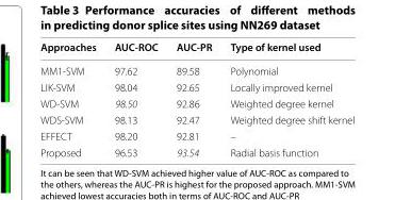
<table><thead><tr><td>Approaches</td><td>AUC-ROC</td><td>AUC-PR</td><td>Type of kernel used</td></tr></thead><tbody><tr><td>MM1-SVM</td><td>97.62</td><td>89.58</td><td>Polynomial</td></tr><tr><td>LIK-SVM</td><td>98.04</td><td>92.65</td><td>Locally improved kernel</td></tr><tr><td>WD-SVM</td><td>98.50</td><td>92.86</td><td>Weighted degree kernel</td></tr><tr><td>WDS-SVM</td><td>98.13</td><td>92.47</td><td>Weighted degree shift kernel</td></tr><tr><td>EFFECT</td><td>98.20</td><td>92.81</td><td>–</td></tr><tr><td>Proposed</td><td>96.53</td><td>93.54</td><td>Radial basis function</td></tr></tbody></table>